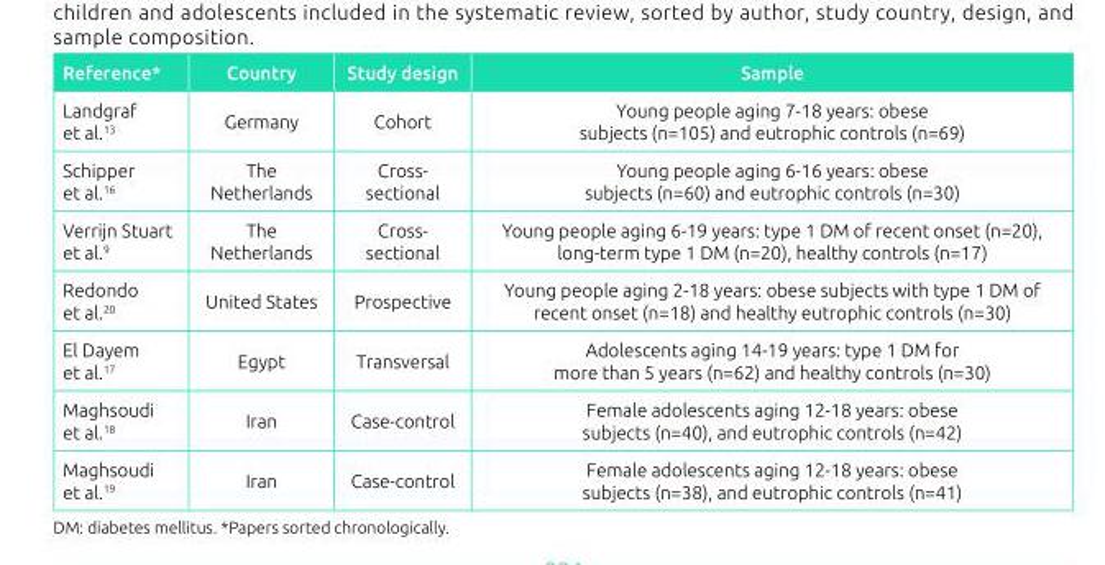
<table><thead><tr><td>Reference*</td><td>Country</td><td>Study design</td><td>Sample</td></tr></thead><tbody><tr><td>Landgraf et al.<sup>13</sup></td><td>Germany</td><td>Cohort</td><td>Young people aging 7-18 years: obese subjects (n=105) and eutrophic controls (n=69)</td></tr><tr><td>Schipper et al.<sup>16</sup></td><td>The Netherlands</td><td>Cross- sectional</td><td>Young people aging 6-16 years: obese subjects (n=60) and eutrophic controls (n=30)</td></tr><tr><td>Verrijn Stuart et al.<sup>9</sup></td><td>The Netherlands</td><td>Cross- sectional</td><td>Young people aging 6-19 years: type 1 DM of recent onset (n=20), long-term type 1 DM (n=20), healthy controls (n=17)</td></tr><tr><td>Redondo et al.<sup>20</sup></td><td>United States</td><td>Prospective</td><td>Young people aging 2-18 years: obese subjects with type 1 DM of recent onset (n=18) and healthy eutrophic controls (n=30)</td></tr><tr><td>El Dayem et al.<sup>17</sup></td><td>Egypt</td><td>Transversal</td><td>Adolescents aging 14-19 years: type 1 DM for more than 5 years (n=62) and healthy controls (n=30)</td></tr><tr><td>Maghsoudi et al.<sup>18</sup></td><td>Iran</td><td>Case-control</td><td>Female adolescents aging 12-18 years: obese subjects (n=40), and eutrophic controls (n=42)</td></tr><tr><td>Maghsoudi et al.<sup>19</sup></td><td>Iran</td><td>Case-control</td><td>Female adolescents aging 12-18 years: obese subjects (n=38), and eutrophic controls (n=41)</td></tr></tbody></table>